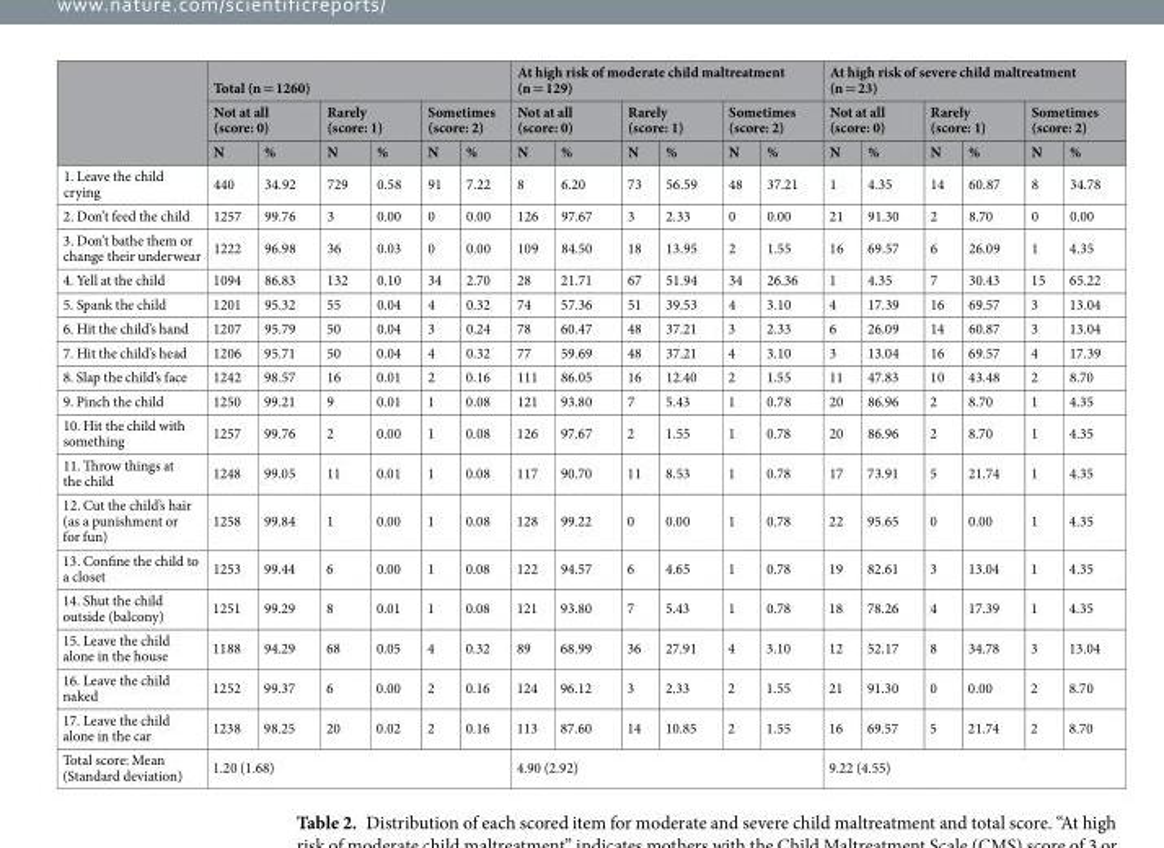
<table><thead><tr><td rowspan="3"></td><td colspan="6">Total (n = 1260)</td><td colspan="6">At high risk of moderate child maltreatment (n = 129)</td><td colspan="6">At high risk of severe child maltreatment (n = 23)</td></tr><tr><td colspan="2">Not at all (score: 0)</td><td colspan="2">Rarely (score: 1)</td><td colspan="2">Sometimes (score: 2)</td><td colspan="2">Not at all (score: 0)</td><td colspan="2">Rarely (score: 1)</td><td colspan="2">Sometimes (score: 2)</td><td colspan="2">Not at all (score: 0)</td><td colspan="2">Rarely (score: 1)</td><td colspan="2">Sometimes (score: 2)</td></tr><tr><td>N</td><td>%</td><td>N</td><td>%</td><td>N</td><td>%</td><td>N</td><td>%</td><td>N</td><td>%</td><td>N</td><td>%</td><td>N</td><td>%</td><td>N</td><td>%</td><td>N</td><td>%</td></tr></thead><tbody><tr><td>1. Leave the child crying</td><td>440</td><td>34.92</td><td>729</td><td>0.58</td><td>91</td><td>7.22</td><td>8</td><td>6.20</td><td>73</td><td>56.59</td><td>48</td><td>37.21</td><td>1</td><td>4.35</td><td>14</td><td>60.87</td><td>8</td><td>34.78</td></tr><tr><td>2. Don’t feed the child</td><td>1257</td><td>99.76</td><td>3</td><td>0.00</td><td>0</td><td>0.00</td><td>126</td><td>97.67</td><td>3</td><td>2.33</td><td>0</td><td>0.00</td><td>21</td><td>91.30</td><td>2</td><td>8.70</td><td>0</td><td>0.00</td></tr><tr><td>3. Don’t bathe them or change their underwear</td><td>1222</td><td>96.98</td><td>36</td><td>0.03</td><td>0</td><td>0.00</td><td>109</td><td>84.50</td><td>18</td><td>13.95</td><td>2</td><td>1.55</td><td>16</td><td>69.57</td><td>6</td><td>26.09</td><td>1</td><td>4.35</td></tr><tr><td>4. Yell at the child</td><td>1094</td><td>86.83</td><td>132</td><td>0.10</td><td>34</td><td>2.70</td><td>28</td><td>21.71</td><td>67</td><td>51.94</td><td>34</td><td>26.36</td><td>1</td><td>4.35</td><td>7</td><td>30.43</td><td>15</td><td>65.22</td></tr><tr><td>5. Spank the child</td><td>1201</td><td>95.32</td><td>55</td><td>0.04</td><td>4</td><td>0.32</td><td>74</td><td>57.36</td><td>51</td><td>39.53</td><td>4</td><td>3.10</td><td>4</td><td>17.39</td><td>16</td><td>69.57</td><td>3</td><td>13.04</td></tr><tr><td>6. Hit the child’s hand</td><td>1207</td><td>95.79</td><td>50</td><td>0.04</td><td>3</td><td>0.24</td><td>78</td><td>60.47</td><td>48</td><td>37.21</td><td>3</td><td>2.33</td><td>6</td><td>26.09</td><td>14</td><td>60.87</td><td>3</td><td>13.04</td></tr><tr><td>7. Hit the child’s head</td><td>1206</td><td>95.71</td><td>50</td><td>0.04</td><td>4</td><td>0.32</td><td>77</td><td>59.69</td><td>48</td><td>37.21</td><td>4</td><td>3.10</td><td>3</td><td>13.04</td><td>16</td><td>69.57</td><td>4</td><td>17.39</td></tr><tr><td>8. Slap the child’s face</td><td>1242</td><td>98.57</td><td>16</td><td>0.01</td><td>2</td><td>0.16</td><td>111</td><td>86.05</td><td>16</td><td>12.40</td><td>2</td><td>1.55</td><td>11</td><td>47.83</td><td>10</td><td>43.48</td><td>2</td><td>8.70</td></tr><tr><td>9. Pinch the child</td><td>1250</td><td>99.21</td><td>9</td><td>0.01</td><td>1</td><td>0.08</td><td>121</td><td>93.80</td><td>7</td><td>5.43</td><td>1</td><td>0.78</td><td>20</td><td>86.96</td><td>2</td><td>8.70</td><td>1</td><td>4.35</td></tr><tr><td>10. Hit the child with something</td><td>1257</td><td>99.76</td><td>2</td><td>0.00</td><td>1</td><td>0.08</td><td>126</td><td>97.67</td><td>2</td><td>1.55</td><td>1</td><td>0.78</td><td>20</td><td>86.96</td><td>2</td><td>8.70</td><td>1</td><td>4.35</td></tr><tr><td>11. Throw things at the child</td><td>1248</td><td>99.05</td><td>11</td><td>0.01</td><td>1</td><td>0.08</td><td>117</td><td>90.70</td><td>11</td><td>8.53</td><td>1</td><td>0.78</td><td>17</td><td>73.91</td><td>5</td><td>21.74</td><td>1</td><td>4.35</td></tr><tr><td>12. Cut the child’s hair (as a punishment or for fun)</td><td>1258</td><td>99.84</td><td>1</td><td>0.00</td><td>1</td><td>0.08</td><td>128</td><td>99.22</td><td>0</td><td>0.00</td><td>1</td><td>0.78</td><td>22</td><td>95.65</td><td>0</td><td>0.00</td><td>1</td><td>4.35</td></tr><tr><td>13. Confine the child to a closet</td><td>1253</td><td>99.44</td><td>6</td><td>0.00</td><td>1</td><td>0.08</td><td>122</td><td>94.57</td><td>6</td><td>4.65</td><td>1</td><td>0.78</td><td>19</td><td>82.61</td><td>3</td><td>13.04</td><td>1</td><td>4.35</td></tr><tr><td>14. Shut the child outside (balcony)</td><td>1251</td><td>99.29</td><td>8</td><td>0.01</td><td>1</td><td>0.08</td><td>121</td><td>93.80</td><td>7</td><td>5.43</td><td>1</td><td>0.78</td><td>18</td><td>78.26</td><td>4</td><td>17.39</td><td>1</td><td>4.35</td></tr><tr><td>15. Leave the child alone in the house</td><td>1188</td><td>94.29</td><td>68</td><td>0.05</td><td>4</td><td>0.32</td><td>89</td><td>68.99</td><td>36</td><td>27.91</td><td>4</td><td>3.10</td><td>12</td><td>52.17</td><td>8</td><td>34.78</td><td>3</td><td>13.04</td></tr><tr><td>16. Leave the child naked</td><td>1252</td><td>99.37</td><td>6</td><td>0.00</td><td>2</td><td>0.16</td><td>124</td><td>96.12</td><td>3</td><td>2.33</td><td>2</td><td>1.55</td><td>21</td><td>91.30</td><td>0</td><td>0.00</td><td>2</td><td>8.70</td></tr><tr><td>17. Leave the child alone in the car</td><td>1238</td><td>98.25</td><td>20</td><td>0.02</td><td>2</td><td>0.16</td><td>113</td><td>87.60</td><td>14</td><td>10.85</td><td>2</td><td>1.55</td><td>16</td><td>69.57</td><td>5</td><td>21.74</td><td>2</td><td>8.70</td></tr><tr><td>Total score: Mean (Standard deviation)</td><td colspan="6">1.20 (1.68)</td><td colspan="6">4.90 (2.92)</td><td colspan="6">9.22 (4.55)</td></tr></tbody></table>